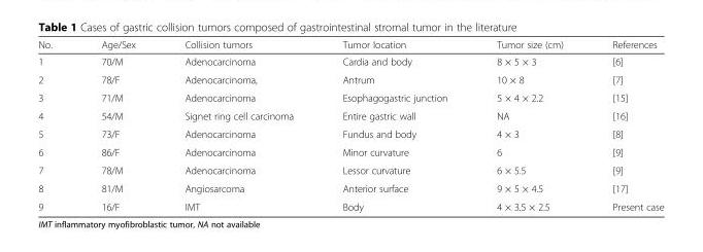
<table><thead><tr><td>No.</td><td>Age/Sex</td><td>Collision tumors</td><td>Tumor location</td><td>Tumor size (cm)</td><td>References</td></tr></thead><tbody><tr><td>1</td><td>70/M</td><td>Adenocarcinoma</td><td>Cardia and body</td><td>8 × 5 × 3</td><td>[6]</td></tr><tr><td>2</td><td>78/F</td><td>Adenocarcinoma,</td><td>Antrum</td><td>10 × 8</td><td>[7]</td></tr><tr><td>3</td><td>71/M</td><td>Adenocarcinoma</td><td>Esophagogastric junction</td><td>5 × 4 × 2.2</td><td>[15]</td></tr><tr><td>4</td><td>54/M</td><td>Signet ring cell carcinoma</td><td>Entire gastric wall</td><td>NA</td><td>[16]</td></tr><tr><td>5</td><td>73/F</td><td>Adenocarcinoma</td><td>Fundus and body</td><td>4 × 3</td><td>[8]</td></tr><tr><td>6</td><td>86/F</td><td>Adenocarcinoma</td><td>Minor curvature</td><td>6</td><td>[9]</td></tr><tr><td>7</td><td>78/M</td><td>Adenocarcinoma</td><td>Lessor curvature</td><td>6 × 5.5</td><td>[9]</td></tr><tr><td>8</td><td>81/M</td><td>Angiosarcoma</td><td>Anterior surface</td><td>9 × 5 × 4.5</td><td>[17]</td></tr><tr><td>9</td><td>16/F</td><td>IMT</td><td>Body</td><td>4 × 3.5 × 2.5</td><td>Present case</td></tr></tbody></table>